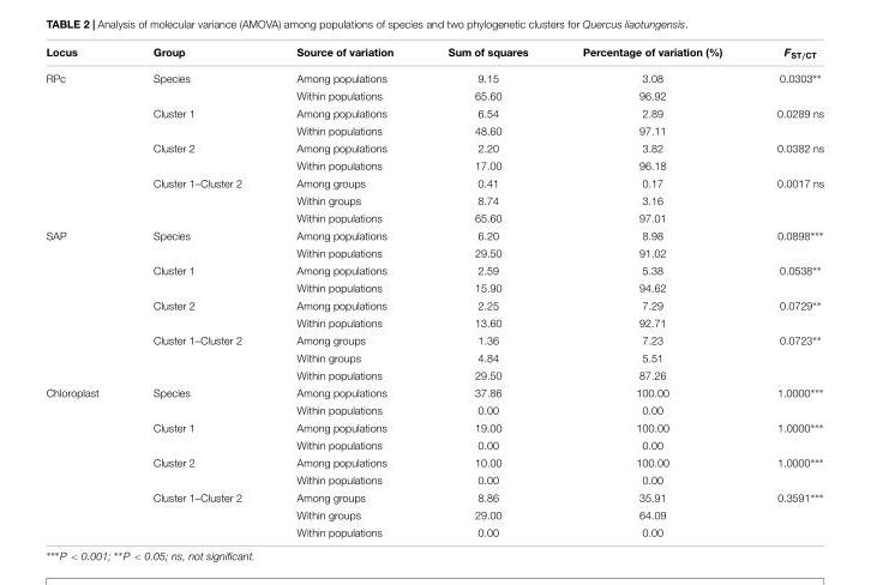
<table><thead><tr><td>Locus</td><td>Group</td><td>Source of variation</td><td>Sum of squares</td><td>Percentage of variation (%)</td><td>F<sub>ST/CT</sub></td></tr></thead><tbody><tr><td rowspan="9">RPc</td><td>Species</td><td>Among populations</td><td>9.15</td><td>3.08</td><td>0.0303∗∗</td></tr><tr><td></td><td>Within populations</td><td>65.60</td><td>96.92</td><td></td></tr><tr><td>Cluster 1</td><td>Among populations</td><td>6.54</td><td>2.89</td><td>0.0289 ns</td></tr><tr><td></td><td>Within populations</td><td>48.60</td><td>97.11</td><td></td></tr><tr><td>Cluster 2</td><td>Among populations</td><td>2.20</td><td>3.82</td><td>0.0382 ns</td></tr><tr><td></td><td>Within populations</td><td>17.00</td><td>96.18</td><td></td></tr><tr><td>Cluster 1–Cluster 2</td><td>Among groups</td><td>0.41</td><td>0.17</td><td>0.0017 ns</td></tr><tr><td></td><td>Within groups</td><td>8.74</td><td>3.16</td><td></td></tr><tr><td></td><td>Within populations</td><td>65.60</td><td>97.01</td><td></td></tr><tr><td rowspan="9">SAP</td><td>Species</td><td>Among populations</td><td>6.20</td><td>8.98</td><td>0.0898∗∗∗</td></tr><tr><td></td><td>Within populations</td><td>29.50</td><td>91.02</td><td></td></tr><tr><td>Cluster 1</td><td>Among populations</td><td>2.59</td><td>5.38</td><td>0.0538∗∗</td></tr><tr><td></td><td>Within populations</td><td>15.90</td><td>94.62</td><td></td></tr><tr><td>Cluster 2</td><td>Among populations</td><td>2.25</td><td>7.29</td><td>0.0729∗∗</td></tr><tr><td></td><td>Within populations</td><td>13.60</td><td>92.71</td><td></td></tr><tr><td>Cluster 1–Cluster 2</td><td>Among groups</td><td>1.36</td><td>7.23</td><td>0.0723∗∗</td></tr><tr><td></td><td>Within groups</td><td>4.84</td><td>5.51</td><td></td></tr><tr><td></td><td>Within populations</td><td>29.50</td><td>87.26</td><td></td></tr><tr><td rowspan="9">Chloroplast</td><td>Species</td><td>Among populations</td><td>37.86</td><td>100.00</td><td>1.0000∗∗∗</td></tr><tr><td></td><td>Within populations</td><td>0.00</td><td>0.00</td><td></td></tr><tr><td>Cluster 1</td><td>Among populations</td><td>19.00</td><td>100.00</td><td>1.0000∗∗∗</td></tr><tr><td></td><td>Within populations</td><td>0.00</td><td>0.00</td><td></td></tr><tr><td>Cluster 2</td><td>Among populations</td><td>10.00</td><td>100.00</td><td>1.0000∗∗∗</td></tr><tr><td></td><td>Within populations</td><td>0.00</td><td>0.00</td><td></td></tr><tr><td>Cluster 1–Cluster 2</td><td>Among groups</td><td>8.86</td><td>35.91</td><td>0.3591∗∗∗</td></tr><tr><td></td><td>Within groups</td><td>29.00</td><td>64.09</td><td></td></tr><tr><td></td><td>Within populations</td><td>0.00</td><td>0.00</td><td></td></tr></tbody></table>